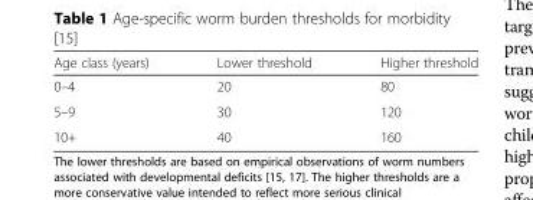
<table><thead><tr><td>Age class (years)</td><td>Lower threshold</td><td>Higher threshold</td></tr></thead><tbody><tr><td>0–4</td><td>20</td><td>80</td></tr><tr><td>5–9</td><td>30</td><td>120</td></tr><tr><td>10+</td><td>40</td><td>160</td></tr></tbody></table>